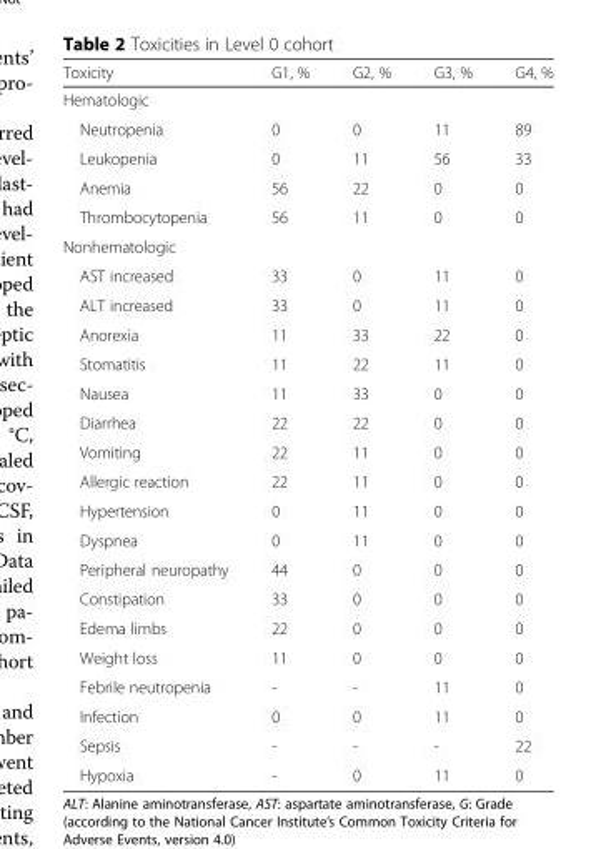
<table><thead><tr><td>Toxicity</td><td>G1, %</td><td>G2, %</td><td>G3, %</td><td>G4, %</td></tr></thead><tbody><tr><td colspan="5">Hematologic</td></tr><tr><td>Neutropenia</td><td>0</td><td>0</td><td>11</td><td>89</td></tr><tr><td>Leukopenia</td><td>0</td><td>11</td><td>56</td><td>33</td></tr><tr><td>Anemia</td><td>56</td><td>22</td><td>0</td><td>0</td></tr><tr><td>Thrombocytopenia</td><td>56</td><td>11</td><td>0</td><td>0</td></tr><tr><td colspan="5">Nonhematologic</td></tr><tr><td>AST increased</td><td>33</td><td>0</td><td>11</td><td>0</td></tr><tr><td>ALT increased</td><td>33</td><td>0</td><td>11</td><td>0</td></tr><tr><td>Anorexia</td><td>11</td><td>33</td><td>22</td><td>0</td></tr><tr><td>Stomatitis</td><td>11</td><td>22</td><td>11</td><td>0</td></tr><tr><td>Nausea</td><td>11</td><td>33</td><td>0</td><td>0</td></tr><tr><td>Diarrhea</td><td>22</td><td>22</td><td>0</td><td>0</td></tr><tr><td>Vomiting</td><td>22</td><td>11</td><td>0</td><td>0</td></tr><tr><td>Allergic reaction</td><td>22</td><td>11</td><td>0</td><td>0</td></tr><tr><td>Hypertension</td><td>0</td><td>11</td><td>0</td><td>0</td></tr><tr><td>Dyspnea</td><td>0</td><td>11</td><td>0</td><td>0</td></tr><tr><td>Peripheral neuropathy</td><td>44</td><td>0</td><td>0</td><td>0</td></tr><tr><td>Constipation</td><td>33</td><td>0</td><td>0</td><td>0</td></tr><tr><td>Edema limbs</td><td>22</td><td>0</td><td>0</td><td>0</td></tr><tr><td>Weight loss</td><td>11</td><td>0</td><td>0</td><td>0</td></tr><tr><td>Febrile neutropenia</td><td>-</td><td>-</td><td>11</td><td>0</td></tr><tr><td>Infection</td><td>0</td><td>0</td><td>11</td><td>0</td></tr><tr><td>Sepsis</td><td>-</td><td>-</td><td>-</td><td>22</td></tr><tr><td>Hypoxia</td><td>-</td><td>0</td><td>11</td><td>0</td></tr></tbody></table>